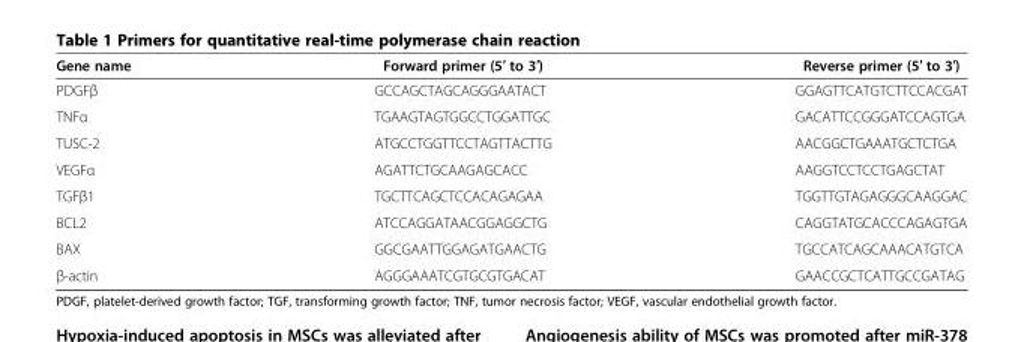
<table><thead><tr><td>Gene name</td><td>Forward primer (5′ to 3′)</td><td>Reverse primer (5′ to 3′)</td></tr></thead><tbody><tr><td>PDGFβ</td><td>GCCAGCTAGCAGGGAATACT</td><td>GGAGTTCATGTCTTCCACGAT</td></tr><tr><td>TNFα</td><td>TGAAGTAGTGGCCTGGATTGC</td><td>GACATTCCGGGATCCAGTGA</td></tr><tr><td>TUSC-2</td><td>ATGCCTGGTTCCTAGTTACTTG</td><td>AACGGCTGAAATGCTCTGA</td></tr><tr><td>VEGFα</td><td>AGATTCTGCAAGAGCACC</td><td>AAGGTCCTCCTGAGCTAT</td></tr><tr><td>TGFβ1</td><td>TGCTTCAGCTCCACAGAGAA</td><td>TGGTTGTAGAGGGCAAGGAC</td></tr><tr><td>BCL2</td><td>ATCCAGGATAACGGAGGCTG</td><td>CAGGTATGCACCCAGAGTGA</td></tr><tr><td>BAX</td><td>GGCGAATTGGAGATGAACTG</td><td>TGCCATCAGCAAACATGTCA</td></tr><tr><td>β-actin</td><td>AGGGAAATCGTGCGTGACAT</td><td>GAACCGCTCATTGCCGATAG</td></tr></tbody></table>